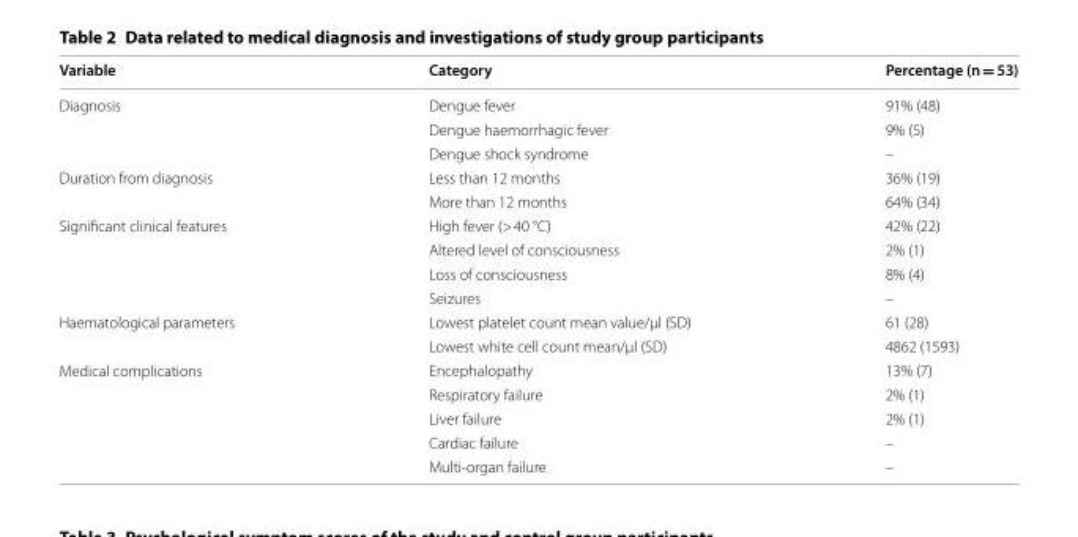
<table><thead><tr><td>Variable</td><td>Category</td><td>Percentage (n = 53)</td></tr></thead><tbody><tr><td rowspan="3">Diagnosis</td><td>Dengue fever</td><td>91% (48)</td></tr><tr><td>Dengue haemorrhagic fever</td><td>9% (5)</td></tr><tr><td>Dengue shock syndrome</td><td>–</td></tr><tr><td rowspan="2">Duration from diagnosis</td><td>Less than 12 months</td><td>36% (19)</td></tr><tr><td>More than 12 months</td><td>64% (34)</td></tr><tr><td rowspan="4">Significant clinical features</td><td>High fever (&gt; 40 °C)</td><td>42% (22)</td></tr><tr><td>Altered level of consciousness</td><td>2% (1)</td></tr><tr><td>Loss of consciousness</td><td>8% (4)</td></tr><tr><td>Seizures</td><td>–</td></tr><tr><td rowspan="2">Haematological parameters</td><td>Lowest platelet count mean value/µl (SD)</td><td>61 (28)</td></tr><tr><td>Lowest white cell count mean/µl (SD)</td><td>4862 (1593)</td></tr><tr><td rowspan="5">Medical complications</td><td>Encephalopathy</td><td>13% (7)</td></tr><tr><td>Respiratory failure</td><td>2% (1)</td></tr><tr><td>Liver failure</td><td>2% (1)</td></tr><tr><td>Cardiac failure</td><td>–</td></tr><tr><td>Multi-organ failure</td><td>–</td></tr></tbody></table>